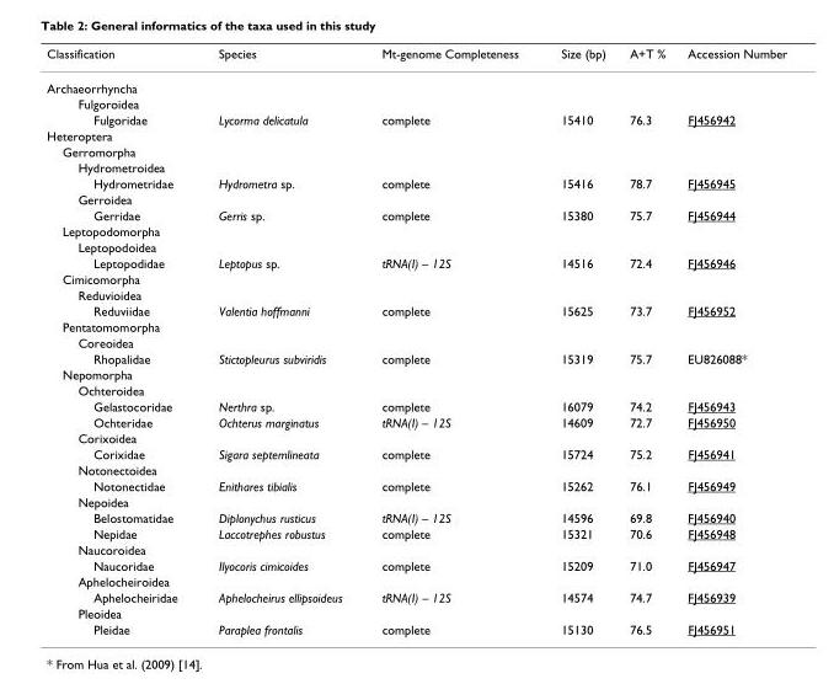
<table><thead><tr><td>Classification</td><td>Species</td><td>Mt-genome Completeness</td><td>Size (bp)</td><td>A+T %</td><td>Accession Number</td></tr></thead><tbody><tr><td colspan="6">Archaeorrhyncha</td></tr><tr><td colspan="6">Fulgoroidea</td></tr><tr><td>Fulgoridae</td><td>Lycorma delicatula</td><td>complete</td><td>15410</td><td>76.3</td><td>FJ456942</td></tr><tr><td colspan="6">Heteroptera</td></tr><tr><td colspan="6">Gerromorpha</td></tr><tr><td colspan="6">Hydrometroidea</td></tr><tr><td>Hydrometridae</td><td>Hydrometra sp.</td><td>complete</td><td>15416</td><td>78.7</td><td>FJ456945</td></tr><tr><td colspan="6">Gerroidea</td></tr><tr><td>Gerridae</td><td>Gerris sp.</td><td>complete</td><td>15380</td><td>75.7</td><td>FJ456944</td></tr><tr><td colspan="6">Leptopodomorpha</td></tr><tr><td colspan="6">Leptopodoidea</td></tr><tr><td>Leptopodidae</td><td>Leptopus sp.</td><td>tRNA(I) – 12S</td><td>14516</td><td>72.4</td><td>FJ456946</td></tr><tr><td colspan="6">Cimicomorpha</td></tr><tr><td colspan="6">Reduvioidea</td></tr><tr><td>Reduviidae</td><td>Valentia hoffmanni</td><td>complete</td><td>15625</td><td>73.7</td><td>FJ456952</td></tr><tr><td colspan="6">Pentatomomorpha</td></tr><tr><td colspan="6">Coreoidea</td></tr><tr><td>Rhopalidae</td><td>Stictopleurus subviridis</td><td>complete</td><td>15319</td><td>75.7</td><td>EU826088*</td></tr><tr><td colspan="6">Nepomorpha</td></tr><tr><td colspan="6">Ochteroidea</td></tr><tr><td>Gelastocoridae</td><td>Nerthra sp.</td><td>complete</td><td>16079</td><td>74.2</td><td>FJ456943</td></tr><tr><td>Ochteridae</td><td>Ochterus marginatus</td><td>tRNA(I) – 12S</td><td>14609</td><td>72.7</td><td>FJ456950</td></tr><tr><td colspan="6">Corixoidea</td></tr><tr><td>Corixidae</td><td>Sigara septemlineata</td><td>complete</td><td>15724</td><td>75.2</td><td>FJ456941</td></tr><tr><td colspan="6">Notonectoidea</td></tr><tr><td>Notonectidae</td><td>Enithares tibialis</td><td>complete</td><td>15262</td><td>76.1</td><td>FJ456949</td></tr><tr><td colspan="6">Nepoidea</td></tr><tr><td>Belostomatidae</td><td>Diplonychus rusticus</td><td>tRNA(I) – 12S</td><td>14596</td><td>69.8</td><td>FJ456940</td></tr><tr><td>Nepidae</td><td>Laccotrephes robustus</td><td>complete</td><td>15321</td><td>70.6</td><td>FJ456948</td></tr><tr><td colspan="6">Naucoroidea</td></tr><tr><td>Naucoridae</td><td>Ilyocoris cimicoides</td><td>complete</td><td>15209</td><td>71.0</td><td>FJ456947</td></tr><tr><td colspan="6">Aphelocheiroidea</td></tr><tr><td>Aphelocheiridae</td><td>Aphelocheirus ellipsoideus</td><td>tRNA(I) – 12S</td><td>14574</td><td>74.7</td><td>FJ456939</td></tr><tr><td colspan="6">Pleoidea</td></tr><tr><td>Pleidae</td><td>Paraplea frontalis</td><td>complete</td><td>15130</td><td>76.5</td><td>FJ456951</td></tr></tbody></table>